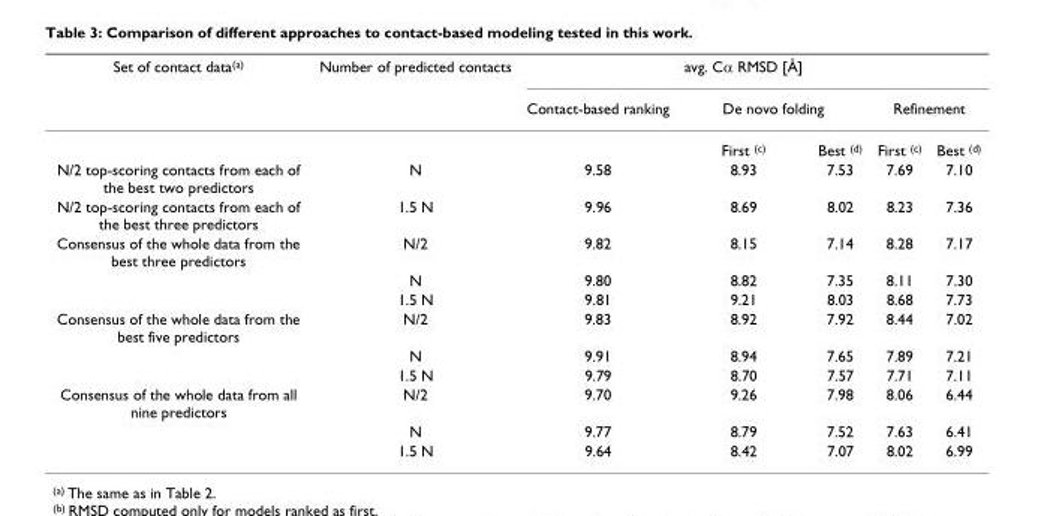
<table><thead><tr><td rowspan="2">Set of contact data<sup>(a)</sup></td><td rowspan="2">Number of predicted contacts</td><td rowspan="2">Contact-based ranking</td><td>avg. Cα RMSD [Å]</td><td></td><td></td><td></td></tr><tr><td colspan="2">De novo folding</td><td colspan="2">Refinement</td></tr></thead><tbody><tr><td></td><td></td><td></td><td>First <sup>(c)</sup></td><td>Best <sup>(d)</sup></td><td>First <sup>(c)</sup></td><td>Best <sup>(d)</sup></td></tr><tr><td>N/2 top-scoring contacts from each of the best two predictors</td><td>N</td><td>9.58</td><td>8.93</td><td>7.53</td><td>7.69</td><td>7.10</td></tr><tr><td>N/2 top-scoring contacts from each of the best three predictors</td><td>1.5 N</td><td>9.96</td><td>8.69</td><td>8.02</td><td>8.23</td><td>7.36</td></tr><tr><td rowspan="3">Consensus of the whole data from the best three predictors</td><td>N/2</td><td>9.82</td><td>8.15</td><td>7.14</td><td>8.28</td><td>7.17</td></tr><tr><td>N</td><td>9.80</td><td>8.82</td><td>7.35</td><td>8.11</td><td>7.30</td></tr><tr><td>1.5 N</td><td>9.81</td><td>9.21</td><td>8.03</td><td>8.68</td><td>7.73</td></tr><tr><td rowspan="3">Consensus of the whole data from the best five predictors</td><td>N/2</td><td>9.83</td><td>8.92</td><td>7.92</td><td>8.44</td><td>7.02</td></tr><tr><td>N</td><td>9.91</td><td>8.94</td><td>7.65</td><td>7.89</td><td>7.21</td></tr><tr><td>1.5 N</td><td>9.79</td><td>8.70</td><td>7.57</td><td>7.71</td><td>7.11</td></tr><tr><td rowspan="3">Consensus of the whole data from all nine predictors</td><td>N/2</td><td>9.70</td><td>9.26</td><td>7.98</td><td>8.06</td><td>6.44</td></tr><tr><td>N</td><td>9.77</td><td>8.79</td><td>7.52</td><td>7.63</td><td>6.41</td></tr><tr><td>1.5 N</td><td>9.64</td><td>8.42</td><td>7.07</td><td>8.02</td><td>6.99</td></tr></tbody></table>